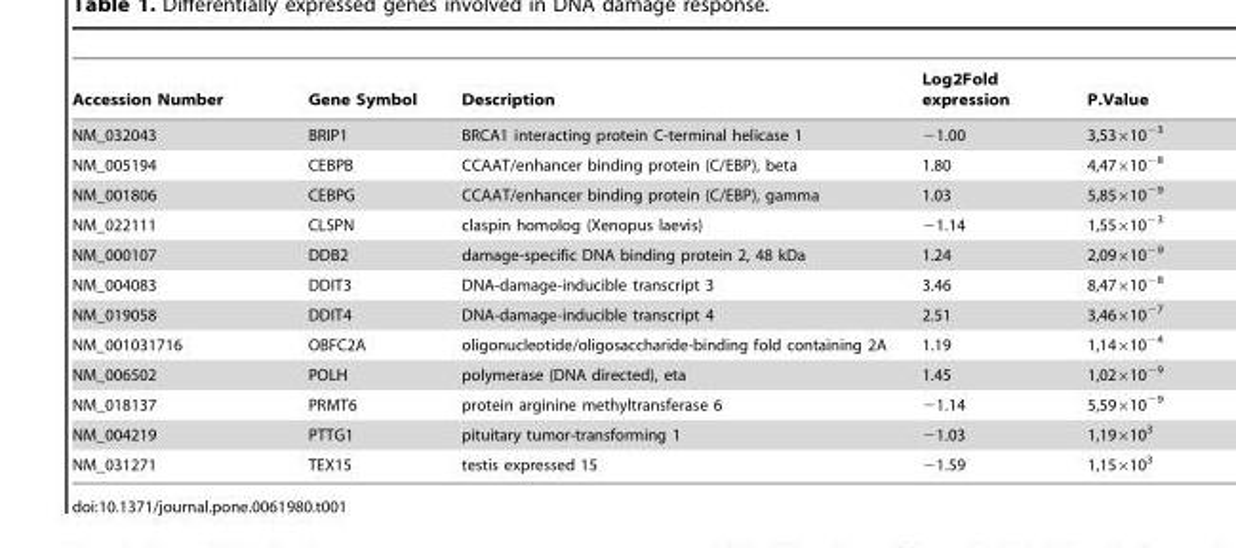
<table><thead><tr><td>Accession Number</td><td>Gene Symbol</td><td>Description</td><td>Log2Fold expression</td><td>P.Value</td></tr></thead><tbody><tr><td>NM_032043</td><td>BRIP1</td><td>BRCA1 interacting protein C-terminal helicase 1</td><td>−1.00</td><td>3,53×10<sup>−3</sup></td></tr><tr><td>NM_005194</td><td>CEBPB</td><td>CCAAT/enhancer binding protein (C/EBP), beta</td><td>1.80</td><td>4,47×10<sup>−8</sup></td></tr><tr><td>NM_001806</td><td>CEBPG</td><td>CCAAT/enhancer binding protein (C/EBP), gamma</td><td>1.03</td><td>5,85×10<sup>−9</sup></td></tr><tr><td>NM_022111</td><td>CLSPN</td><td>claspin homolog (Xenopus laevis)</td><td>−1.14</td><td>1,55×10<sup>−3</sup></td></tr><tr><td>NM_000107</td><td>DDB2</td><td>damage-specific DNA binding protein 2, 48 kDa</td><td>1.24</td><td>2,09×10<sup>−9</sup></td></tr><tr><td>NM_004083</td><td>DDIT3</td><td>DNA-damage-inducible transcript 3</td><td>3.46</td><td>8,47×10<sup>−8</sup></td></tr><tr><td>NM_019058</td><td>DDIT4</td><td>DNA-damage-inducible transcript 4</td><td>2.51</td><td>3,46×10<sup>−7</sup></td></tr><tr><td>NM_001031716</td><td>OBFC2A</td><td>oligonucleotide/oligosaccharide-binding fold containing 2A</td><td>1.19</td><td>1,14×10<sup>−4</sup></td></tr><tr><td>NM_006502</td><td>POLH</td><td>polymerase (DNA directed), eta</td><td>1.45</td><td>1,02×10<sup>−9</sup></td></tr><tr><td>NM_018137</td><td>PRMT6</td><td>protein arginine methyltransferase 6</td><td>−1.14</td><td>5,59×10<sup>−9</sup></td></tr><tr><td>NM_004219</td><td>PTTG1</td><td>pituitary tumor-transforming 1</td><td>−1.03</td><td>1,19×10<sup>3</sup></td></tr><tr><td>NM_031271</td><td>TEX15</td><td>testis expressed 15</td><td>−1.59</td><td>1,15×10<sup>3</sup></td></tr></tbody></table>